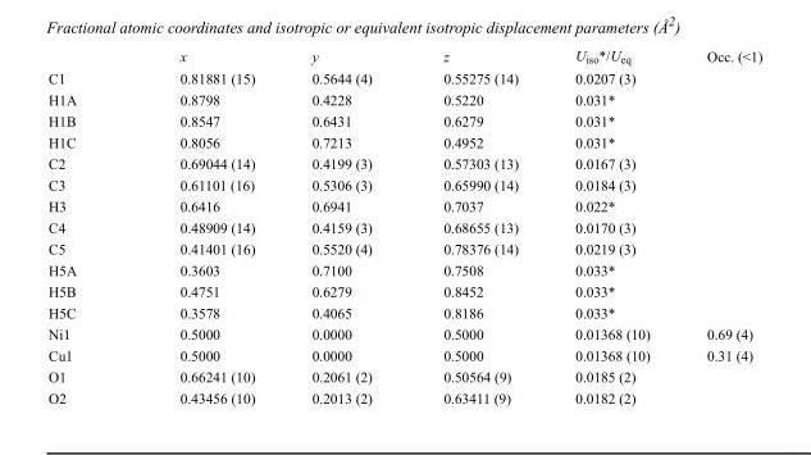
<table><thead><tr><td></td><td>x</td><td>y</td><td>z</td><td>U<sub>iso</sub>*/U<sub>eq</sub></td><td>Occ. (&lt;1)</td></tr></thead><tbody><tr><td>C1</td><td>0.81881 (15)</td><td>0.5644 (4)</td><td>0.55275 (14)</td><td>0.0207 (3)</td><td></td></tr><tr><td>H1A</td><td>0.8798</td><td>0.4228</td><td>0.5220</td><td>0.031*</td><td></td></tr><tr><td>H1B</td><td>0.8547</td><td>0.6431</td><td>0.6279</td><td>0.031*</td><td></td></tr><tr><td>H1C</td><td>0.8056</td><td>0.7213</td><td>0.4952</td><td>0.031*</td><td></td></tr><tr><td>C2</td><td>0.69044 (14)</td><td>0.4199 (3)</td><td>0.57303 (13)</td><td>0.0167 (3)</td><td></td></tr><tr><td>C3</td><td>0.61101 (16)</td><td>0.5306 (3)</td><td>0.65990 (14)</td><td>0.0184 (3)</td><td></td></tr><tr><td>H3</td><td>0.6416</td><td>0.6941</td><td>0.7037</td><td>0.022*</td><td></td></tr><tr><td>C4</td><td>0.48909 (14)</td><td>0.4159 (3)</td><td>0.68655 (13)</td><td>0.0170 (3)</td><td></td></tr><tr><td>C5</td><td>0.41401 (16)</td><td>0.5520 (4)</td><td>0.78376 (14)</td><td>0.0219 (3)</td><td></td></tr><tr><td>H5A</td><td>0.3603</td><td>0.7100</td><td>0.7508</td><td>0.033*</td><td></td></tr><tr><td>H5B</td><td>0.4751</td><td>0.6279</td><td>0.8452</td><td>0.033*</td><td></td></tr><tr><td>H5C</td><td>0.3578</td><td>0.4065</td><td>0.8186</td><td>0.033*</td><td></td></tr><tr><td>Ni1</td><td>0.5000</td><td>0.0000</td><td>0.5000</td><td>0.01368 (10)</td><td>0.69 (4)</td></tr><tr><td>Cu1</td><td>0.5000</td><td>0.0000</td><td>0.5000</td><td>0.01368 (10)</td><td>0.31 (4)</td></tr><tr><td>O1</td><td>0.66241 (10)</td><td>0.2061 (2)</td><td>0.50564 (9)</td><td>0.0185 (2)</td><td></td></tr><tr><td>O2</td><td>0.43456 (10)</td><td>0.2013 (2)</td><td>0.63411 (9)</td><td>0.0182 (2)</td><td></td></tr></tbody></table>